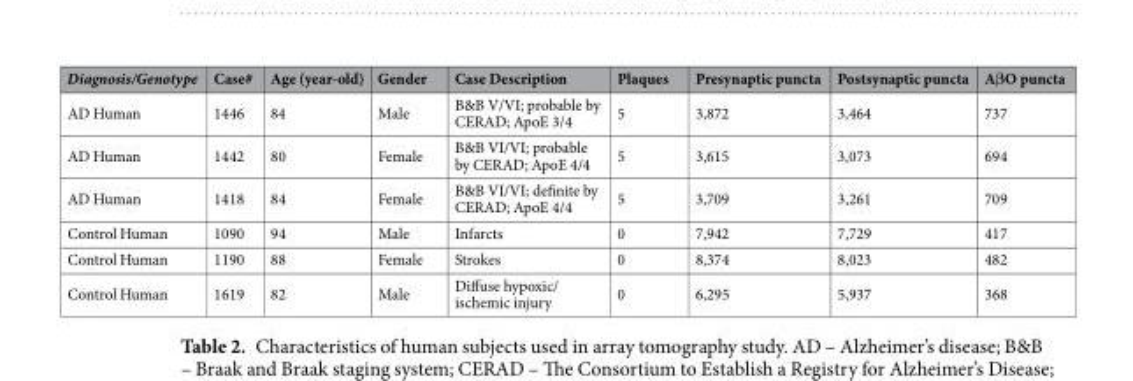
<table><thead><tr><td>Diagnosis/Genotype</td><td>Case#</td><td>Age (year-old)</td><td>Gender</td><td>Case Description</td><td>Plaques</td><td>Presynaptic puncta</td><td>Postsynaptic puncta</td><td>AβO puncta</td></tr></thead><tbody><tr><td>AD Human</td><td>1446</td><td>84</td><td>Male</td><td>B&amp;B V/VI; probable by CERAD; ApoE 3/4</td><td>5</td><td>3,872</td><td>3,464</td><td>737</td></tr><tr><td>AD Human</td><td>1442</td><td>80</td><td>Female</td><td>B&amp;B VI/VI; probable by CERAD; ApoE 4/4</td><td>5</td><td>3,615</td><td>3,073</td><td>694</td></tr><tr><td>AD Human</td><td>1418</td><td>84</td><td>Female</td><td>B&amp;B VI/VI; definite by CERAD; ApoE 4/4</td><td>5</td><td>3,709</td><td>3,261</td><td>709</td></tr><tr><td>Control Human</td><td>1090</td><td>94</td><td>Male</td><td>Infarcts</td><td>0</td><td>7,942</td><td>7,729</td><td>417</td></tr><tr><td>Control Human</td><td>1190</td><td>88</td><td>Female</td><td>Strokes</td><td>0</td><td>8,374</td><td>8,023</td><td>482</td></tr><tr><td>Control Human</td><td>1619</td><td>82</td><td>Male</td><td>Diffuse hypoxic/ ischemic injury</td><td>0</td><td>6,295</td><td>5,937</td><td>368</td></tr></tbody></table>